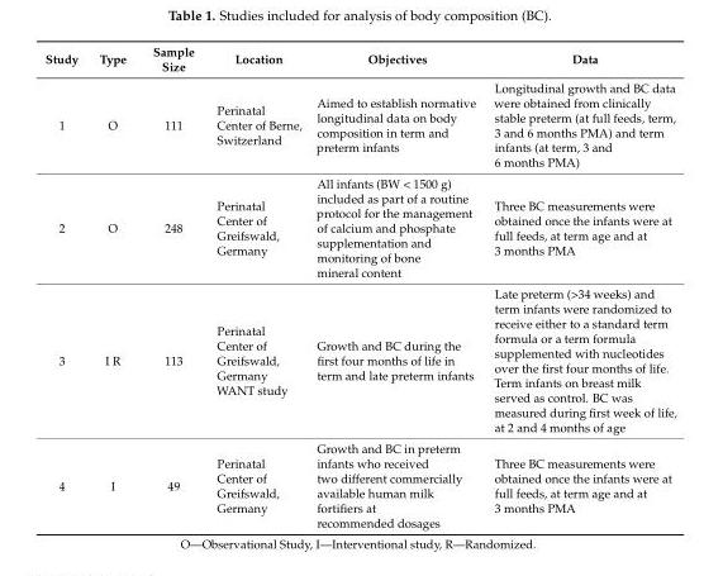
<table><thead><tr><td>Study</td><td>Type</td><td>Sample Size</td><td>Location</td><td>Objectives</td><td>Data</td></tr></thead><tbody><tr><td>1</td><td>O</td><td>111</td><td>Perinatal Center of Berne, Switzerland</td><td>Aimed to establish normative longitudinal data on body composition in term and preterm infants</td><td>Longitudinal growth and BC data were obtained from clinically stable preterm (at full feeds, term, 3 and 6 months PMA) and term infants (at term, 3 and 6 months PMA)</td></tr><tr><td>2</td><td>O</td><td>248</td><td>Perinatal Center of Greifswald, Germany</td><td>All infants (BW &lt; 1500 g) included as part of a routine protocol for the management of calcium and phosphate supplementation and monitoring of bone mineral content</td><td>Three BC measurements were obtained once the infants were at full feeds, at term age and at 3 months PMA</td></tr><tr><td>3</td><td>I R</td><td>113</td><td>Perinatal Center of Greifswald, Germany WANT study</td><td>Growth and BC during the first four months of life in term and late preterm infants</td><td>Late preterm (&gt;34 weeks) and term infants were randomized to receive either to a standard term formula or a term formula supplemented with nucleotides over the first four months of life. Term infants on breast milk served as control. BC was measured during first week of life, at 2 and 4 months of age</td></tr><tr><td>4</td><td>I</td><td>49</td><td>Perinatal Center of Greifswald, Germany</td><td>Growth and BC in preterm infants who received two different commercially available human milk fortifiers at recommended dosages</td><td>Three BC measurements were obtained once the infants were at full feeds, at term age and at 3 months PMA</td></tr></tbody></table>